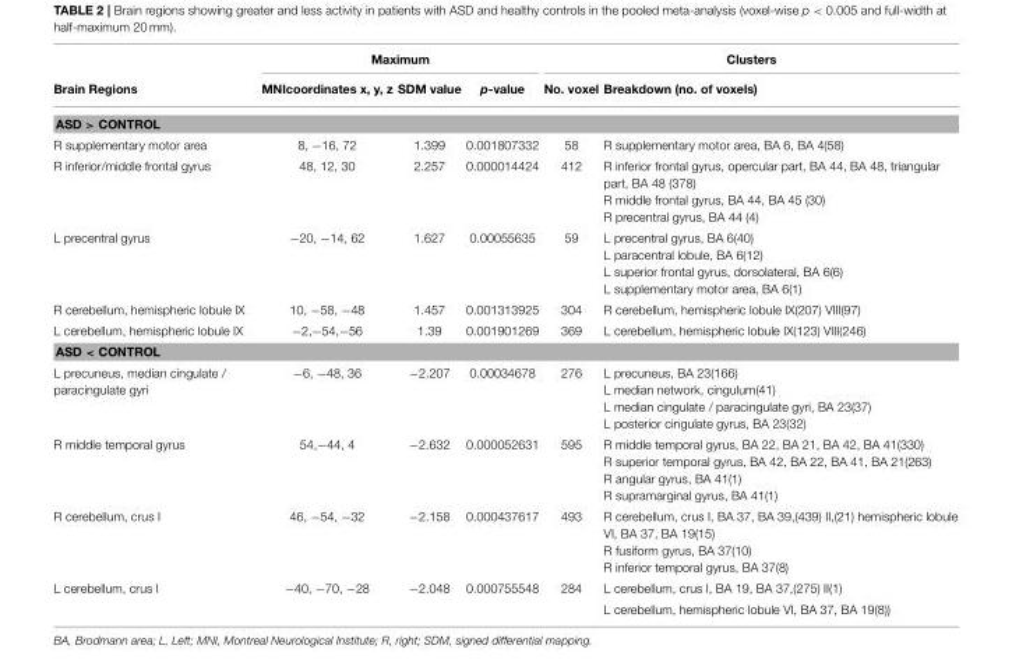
<table><thead><tr><td rowspan="2">Brain Regions</td><td colspan="3">Maximum</td><td colspan="2">Clusters</td></tr><tr><td>MNIcoordinates x, y, z</td><td>SDM value</td><td>p-value</td><td>No. voxel</td><td>Breakdown (no. of voxels)</td></tr></thead><tbody><tr><td colspan="6">ASD &gt; CONTROL</td></tr><tr><td>R supplementary motor area</td><td>8, −16, 72</td><td>1.399</td><td>0.001807332</td><td>58</td><td>R supplementary motor area, BA 6, BA 4(58)</td></tr><tr><td>R inferior/middle frontal gyrus</td><td>48, 12, 30</td><td>2.257</td><td>0.000014424</td><td>412</td><td>R inferior frontal gyrus, opercular part, BA 44, BA 48, triangular part, BA 48 (378) R middle frontal gyrus, BA 44, BA 45 (30) R precentral gyrus, BA 44 (4)</td></tr><tr><td>L precentral gyrus</td><td>−20, −14, 62</td><td>1.627</td><td>0.00055635</td><td>59</td><td>L precentral gyrus, BA 6(40) L paracentral lobule, BA 6(12) L superior frontal gyrus, dorsolateral, BA 6(6) L supplementary motor area, BA 6(1)</td></tr><tr><td>R cerebellum, hemispheric lobule IX</td><td>10, −58, −48</td><td>1.457</td><td>0.001313925</td><td>304</td><td>R cerebellum, hemispheric lobule IX(207) VIII(97)</td></tr><tr><td>L cerebellum, hemispheric lobule IX</td><td>−2,−54,−56</td><td>1.39</td><td>0.001901269</td><td>369</td><td>L cerebellum, hemispheric lobule IX(123) VIII(246)</td></tr><tr><td colspan="6">ASD &lt; CONTROL</td></tr><tr><td>L precuneus, median cingulate / paracingulate gyri</td><td>−6, −48, 36</td><td>−2.207</td><td>0.00034678</td><td>276</td><td>L precuneus, BA 23(166) L median network, cingulum(41) L median cingulate / paracingulate gyri, BA 23(37) L posterior cingulate gyrus, BA 23(32)</td></tr><tr><td>R middle temporal gyrus</td><td>54,−44, 4</td><td>−2.632</td><td>0.000052631</td><td>595</td><td>R middle temporal gyrus, BA 22, BA 21, BA 42, BA 41(330) R superior temporal gyrus, BA 42, BA 22, BA 41, BA 21(263) R angular gyrus, BA 41(1) R supramarginal gyrus, BA 41(1)</td></tr><tr><td>R cerebellum, crus I</td><td>46, −54, −32</td><td>−2.158</td><td>0.000437617</td><td>493</td><td>R cerebellum, crus I, BA 37, BA 39,(439) II,(21) hemispheric lobule VI, BA 37, BA 19(15) R fusiform gyrus, BA 37(10) R inferior temporal gyrus, BA 37(8)</td></tr><tr><td rowspan="2">L cerebellum, crus I</td><td>−40, −70, −28</td><td>−2.048</td><td>0.000755548</td><td>284</td><td>L cerebellum, crus I, BA 19, BA 37,(275) II(1)</td></tr><tr><td></td><td></td><td></td><td></td><td>L cerebellum, hemispheric lobule VI, BA 37, BA 19(8))</td></tr></tbody></table>